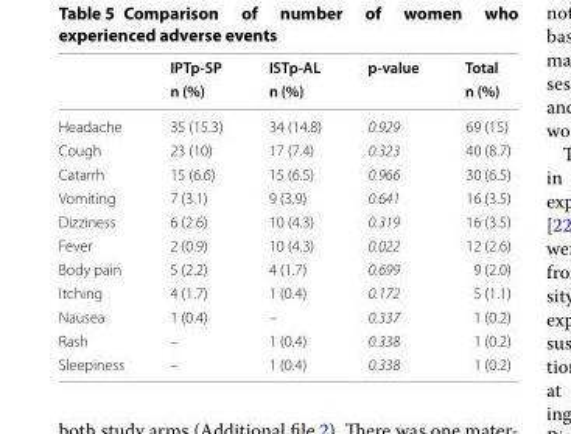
<table><thead><tr><td rowspan="2"></td><td rowspan="2">IPTp‑SP n (%)</td><td rowspan="2">ISTp‑AL n (%)</td><td rowspan="2">p‑value</td><td rowspan="2">Total n (%)</td></tr><tr></tr></thead><tbody><tr><td>Headache</td><td>35 (15.3)</td><td>34 (14.8)</td><td>0.929</td><td>69 (15)</td></tr><tr><td>Cough</td><td>23 (10)</td><td>17 (7.4)</td><td>0.323</td><td>40 (8.7)</td></tr><tr><td>Catarrh</td><td>15 (6.6)</td><td>15 (6.5)</td><td>0.966</td><td>30 (6.5)</td></tr><tr><td>Vomiting</td><td>7 (3.1)</td><td>9 (3.9)</td><td>0.641</td><td>16 (3.5)</td></tr><tr><td>Dizziness</td><td>6 (2.6)</td><td>10 (4.3)</td><td>0.319</td><td>16 (3.5)</td></tr><tr><td>Fever</td><td>2 (0.9)</td><td>10 (4.3)</td><td>0.022</td><td>12 (2.6)</td></tr><tr><td>Body pain</td><td>5 (2.2)</td><td>4 (1.7)</td><td>0.699</td><td>9 (2.0)</td></tr><tr><td>Itching</td><td>4 (1.7)</td><td>1 (0.4)</td><td>0.172</td><td>5 (1.1)</td></tr><tr><td>Nausea</td><td>1 (0.4)</td><td>–</td><td>0.337</td><td>1 (0.2)</td></tr><tr><td>Rash</td><td>–</td><td>1 (0.4)</td><td>0.338</td><td>1 (0.2)</td></tr><tr><td>Sleepiness</td><td>–</td><td>1 (0.4)</td><td>0.338</td><td>1 (0.2)</td></tr></tbody></table>